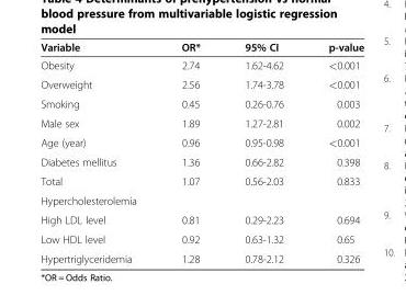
<table><thead><tr><td>Variable</td><td>OR*</td><td>95% CI</td><td>p-value</td></tr></thead><tbody><tr><td>Obesity</td><td>2.74</td><td>1.62-4.62</td><td>&lt;0.001</td></tr><tr><td>Overweight</td><td>2.56</td><td>1.74-3.78</td><td>&lt;0.001</td></tr><tr><td>Smoking</td><td>0.45</td><td>0.26-0.76</td><td>0.003</td></tr><tr><td>Male sex</td><td>1.89</td><td>1.27-2.81</td><td>0.002</td></tr><tr><td>Age (year)</td><td>0.96</td><td>0.95-0.98</td><td>&lt;0.001</td></tr><tr><td>Diabetes mellitus</td><td>1.36</td><td>0.66-2.82</td><td>0.398</td></tr><tr><td>Total</td><td>1.07</td><td>0.56-2.03</td><td>0.833</td></tr><tr><td colspan="4">Hypercholesterolemia</td></tr><tr><td>High LDL level</td><td>0.81</td><td>0.29-2.23</td><td>0.694</td></tr><tr><td>Low HDL level</td><td>0.92</td><td>0.63-1.32</td><td>0.65</td></tr><tr><td>Hypertriglyceridemia</td><td>1.28</td><td>0.78-2.12</td><td>0.326</td></tr></tbody></table>